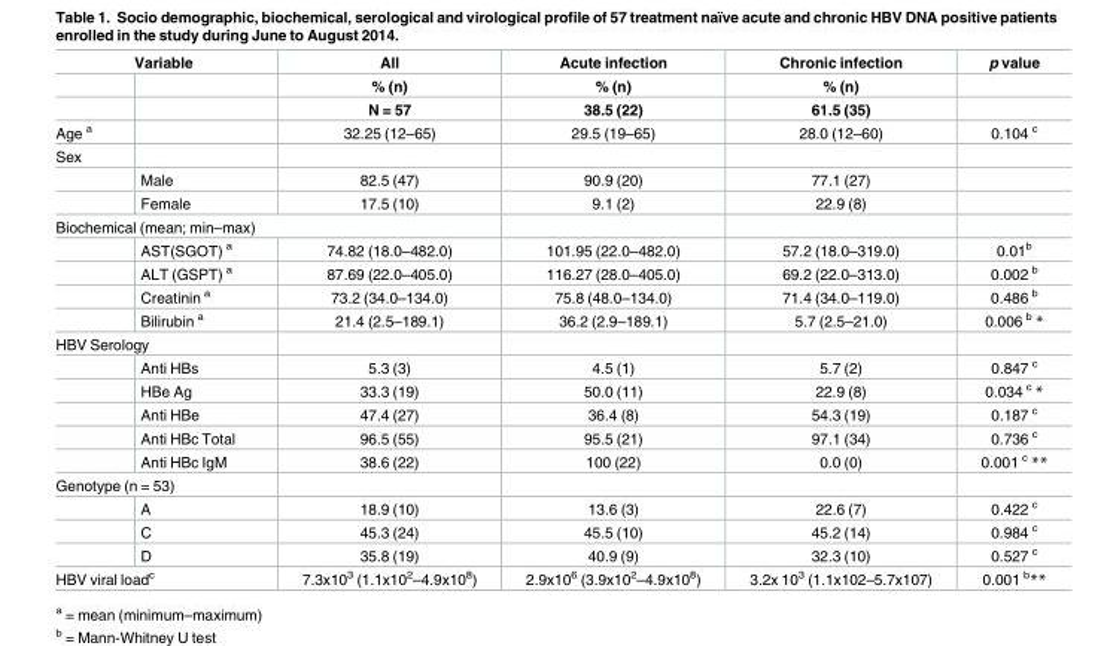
<table><thead><tr><td colspan="2">Variable</td><td rowspan="3">All % (n) N = 57</td><td rowspan="3">Acute infection % (n) 38.5 (22)</td><td rowspan="3">Chronic infection % (n) 61.5 (35)</td><td rowspan="3">p value</td></tr><tr><td rowspan="2"></td><td rowspan="2"></td></tr><tr></tr></thead><tbody><tr><td>Age <sup>a</sup></td><td></td><td>32.25 (12–65)</td><td>29.5 (19–65)</td><td>28.0 (12–60)</td><td>0.104 <sup>c</sup></td></tr><tr><td colspan="6">Sex</td></tr><tr><td></td><td>Male</td><td>82.5 (47)</td><td>90.9 (20)</td><td>77.1 (27)</td><td></td></tr><tr><td></td><td>Female</td><td>17.5 (10)</td><td>9.1 (2)</td><td>22.9 (8)</td><td></td></tr><tr><td colspan="6">Biochemical (mean; min–max)</td></tr><tr><td></td><td>AST(SGOT) <sup>a</sup></td><td>74.82 (18.0–482.0)</td><td>101.95 (22.0–482.0)</td><td>57.2 (18.0–319.0)</td><td>0.01<sup>b</sup></td></tr><tr><td></td><td>ALT (GSPT) <sup>a</sup></td><td>87.69 (22.0–405.0)</td><td>116.27 (28.0–405.0)</td><td>69.2 (22.0–313.0)</td><td>0.002 <sup>b</sup></td></tr><tr><td></td><td>Creatinin <sup>a</sup></td><td>73.2 (34.0–134.0)</td><td>75.8 (48.0–134.0)</td><td>71.4 (34.0–119.0)</td><td>0.486 <sup>b</sup></td></tr><tr><td></td><td>Bilirubin <sup>a</sup></td><td>21.4 (2.5–189.1)</td><td>36.2 (2.9–189.1)</td><td>5.7 (2.5–21.0)</td><td>0.006 <sup>b</sup> *</td></tr><tr><td colspan="6">HBV Serology</td></tr><tr><td></td><td>Anti HBs</td><td>5.3 (3)</td><td>4.5 (1)</td><td>5.7 (2)</td><td>0.847 <sup>c</sup></td></tr><tr><td></td><td>HBe Ag</td><td>33.3 (19)</td><td>50.0 (11)</td><td>22.9 (8)</td><td>0.034 <sup>c</sup> *</td></tr><tr><td></td><td>Anti HBe</td><td>47.4 (27)</td><td>36.4 (8)</td><td>54.3 (19)</td><td>0.187 <sup>c</sup></td></tr><tr><td></td><td>Anti HBc Total</td><td>96.5 (55)</td><td>95.5 (21)</td><td>97.1 (34)</td><td>0.736 <sup>c</sup></td></tr><tr><td></td><td>Anti HBc IgM</td><td>38.6 (22)</td><td>100 (22)</td><td>0.0 (0)</td><td>0.001 <sup>c</sup> **</td></tr><tr><td colspan="6">Genotype (n = 53)</td></tr><tr><td></td><td>A</td><td>18.9 (10)</td><td>13.6 (3)</td><td>22.6 (7)</td><td>0.422 <sup>c</sup></td></tr><tr><td></td><td>C</td><td>45.3 (24)</td><td>45.5 (10)</td><td>45.2 (14)</td><td>0.984 <sup>c</sup></td></tr><tr><td></td><td>D</td><td>35.8 (19)</td><td>40.9 (9)</td><td>32.3 (10)</td><td>0.527 <sup>c</sup></td></tr><tr><td colspan="2">HBV viral load<sup>c</sup></td><td>7.3x10<sup>3</sup> (1.1x10<sup>2</sup>–4.9x10<sup>8</sup>)</td><td>2.9x10<sup>6</sup> (3.9x10<sup>2</sup>–4.9x10<sup>8</sup>)</td><td>3.2x 10<sup>3</sup> (1.1x102–5.7x107)</td><td>0.001 <sup>b</sup>**</td></tr></tbody></table>